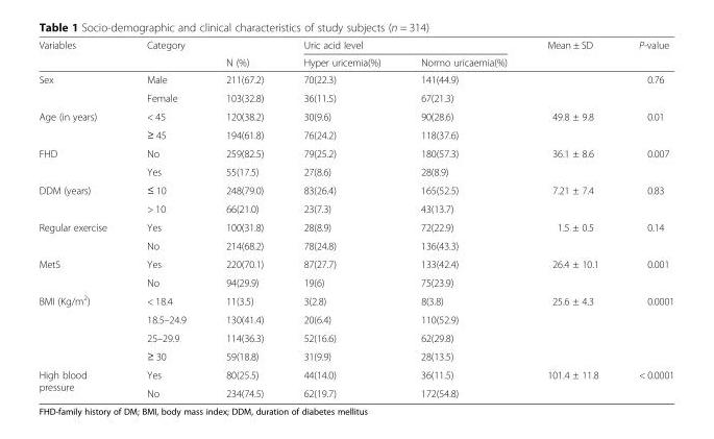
<table><thead><tr><td rowspan="2">Variables</td><td rowspan="2">Category</td><td rowspan="2">N (%)</td><td colspan="2">Uric acid level</td><td rowspan="2">Mean ± SD</td><td rowspan="2">P-value</td></tr><tr><td>Hyper uricemia(%)</td><td>Normo uricaemia(%)</td></tr></thead><tbody><tr><td rowspan="2">Sex</td><td>Male</td><td>211(67.2)</td><td>70(22.3)</td><td>141(44.9)</td><td rowspan="2"></td><td rowspan="2">0.76</td></tr><tr><td>Female</td><td>103(32.8)</td><td>36(11.5)</td><td>67(21.3)</td></tr><tr><td rowspan="2">Age (in years)</td><td>&lt; 45</td><td>120(38.2)</td><td>30(9.6)</td><td>90(28.6)</td><td rowspan="2">49.8 ± 9.8</td><td rowspan="2">0.01</td></tr><tr><td>≥ 45</td><td>194(61.8)</td><td>76(24.2)</td><td>118(37.6)</td></tr><tr><td rowspan="2">FHD</td><td>No</td><td>259(82.5)</td><td>79(25.2)</td><td>180(57.3)</td><td rowspan="2">36.1 ± 8.6</td><td rowspan="2">0.007</td></tr><tr><td>Yes</td><td>55(17.5)</td><td>27(8.6)</td><td>28(8.9)</td></tr><tr><td rowspan="2">DDM (years)</td><td>≤ 10</td><td>248(79.0)</td><td>83(26.4)</td><td>165(52.5)</td><td rowspan="2">7.21 ± 7.4</td><td rowspan="2">0.83</td></tr><tr><td>&gt; 10</td><td>66(21.0)</td><td>23(7.3)</td><td>43(13.7)</td></tr><tr><td rowspan="2">Regular exercise</td><td>Yes</td><td>100(31.8)</td><td>28(8.9)</td><td>72(22.9)</td><td rowspan="2">1.5 ± 0.5</td><td rowspan="2">0.14</td></tr><tr><td>No</td><td>214(68.2)</td><td>78(24.8)</td><td>136(43.3)</td></tr><tr><td rowspan="2">MetS</td><td>Yes</td><td>220(70.1)</td><td>87(27.7)</td><td>133(42.4)</td><td rowspan="2">26.4 ± 10.1</td><td rowspan="2">0.001</td></tr><tr><td>No</td><td>94(29.9)</td><td>19(6)</td><td>75(23.9)</td></tr><tr><td rowspan="4">BMI (Kg/m<sup>2</sup>)</td><td>&lt; 18.4</td><td>11(3.5)</td><td>3(2.8)</td><td>8(3.8)</td><td rowspan="4">25.6 ± 4.3</td><td rowspan="4">0.0001</td></tr><tr><td>18.5–24.9</td><td>130(41.4)</td><td>20(6.4)</td><td>110(52.9)</td></tr><tr><td>25–29.9</td><td>114(36.3)</td><td>52(16.6)</td><td>62(29.8)</td></tr><tr><td>≥ 30</td><td>59(18.8)</td><td>31(9.9)</td><td>28(13.5)</td></tr><tr><td rowspan="2">High blood pressure</td><td>Yes</td><td>80(25.5)</td><td>44(14.0)</td><td>36(11.5)</td><td rowspan="2">101.4 ± 11.8</td><td rowspan="2">&lt; 0.0001</td></tr><tr><td>No</td><td>234(74.5)</td><td>62(19.7)</td><td>172(54.8)</td></tr></tbody></table>